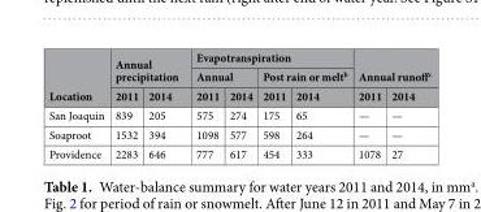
<table><thead><tr><td rowspan="3">Location</td><td rowspan="2" colspan="2">Annual precipitation</td><td colspan="4">Evapotranspiration</td><td rowspan="2" colspan="2">Annual runoff<sup>c</sup></td></tr><tr><td colspan="2">Annual</td><td colspan="2">Post rain or melt<sup>b</sup></td></tr><tr><td>2011</td><td>2014</td><td>2011</td><td>2014</td><td>2011</td><td>2014</td><td>2011</td><td>2014</td></tr></thead><tbody><tr><td>San Joaquin</td><td>839</td><td>205</td><td>575</td><td>274</td><td>175</td><td>65</td><td>—</td><td>—</td></tr><tr><td>Soaproot</td><td>1532</td><td>394</td><td>1098</td><td>577</td><td>598</td><td>264</td><td>—</td><td>—</td></tr><tr><td>Providence</td><td>2283</td><td>646</td><td>777</td><td>617</td><td>454</td><td>333</td><td>1078</td><td>27</td></tr></tbody></table>